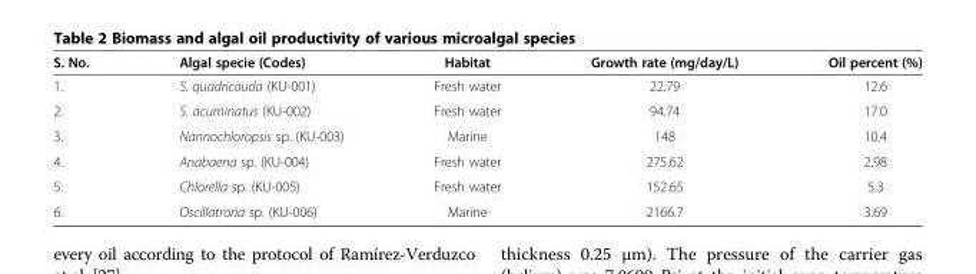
<table><thead><tr><td>S. No.</td><td>Algal specie (Codes)</td><td>Habitat</td><td>Growth rate (mg/day/L)</td><td>Oil percent (%)</td></tr></thead><tbody><tr><td>1.</td><td>S. quadricauda (KU-001)</td><td>Fresh water</td><td>22.79</td><td>12.6</td></tr><tr><td>2.</td><td>S. acuminatus (KU-002)</td><td>Fresh water</td><td>94.74</td><td>17.0</td></tr><tr><td>3.</td><td>Nannochloropsis sp. (KU-003)</td><td>Marine</td><td>148</td><td>10.4</td></tr><tr><td>4.</td><td>Anabaena sp. (KU-004)</td><td>Fresh water</td><td>275.62</td><td>2.98</td></tr><tr><td>5.</td><td>Chlorella sp. (KU-005)</td><td>Fresh water</td><td>152.65</td><td>5.3</td></tr><tr><td>6.</td><td>Oscillatroria sp. (KU-006)</td><td>Marine</td><td>2166.7</td><td>3.69</td></tr></tbody></table>